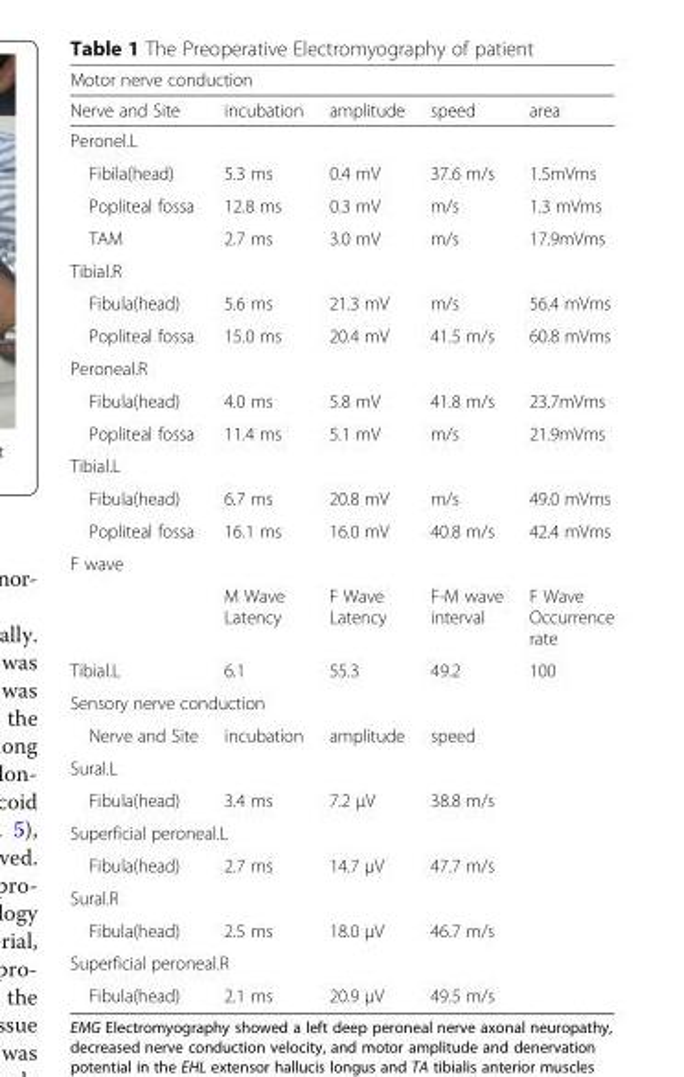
<table><thead><tr><td colspan="5">Motor nerve conduction</td></tr><tr><td>Nerve and Site</td><td>incubation</td><td>amplitude</td><td>speed</td><td>area</td></tr></thead><tbody><tr><td colspan="5">Peronel.L</td></tr><tr><td>Fibila(head)</td><td>5.3 ms</td><td>0.4 mV</td><td>37.6 m/s</td><td>1.5mVms</td></tr><tr><td>Popliteal fossa</td><td>12.8 ms</td><td>0.3 mV</td><td>m/s</td><td>1.3 mVms</td></tr><tr><td>TAM</td><td>2.7 ms</td><td>3.0 mV</td><td>m/s</td><td>17.9mVms</td></tr><tr><td colspan="5">Tibial.R</td></tr><tr><td>Fibula(head)</td><td>5.6 ms</td><td>21.3 mV</td><td>m/s</td><td>56.4 mVms</td></tr><tr><td>Popliteal fossa</td><td>15.0 ms</td><td>20.4 mV</td><td>41.5 m/s</td><td>60.8 mVms</td></tr><tr><td colspan="5">Peroneal.R</td></tr><tr><td>Fibula(head)</td><td>4.0 ms</td><td>5.8 mV</td><td>41.8 m/s</td><td>23.7mVms</td></tr><tr><td>Popliteal fossa</td><td>11.4 ms</td><td>5.1 mV</td><td>m/s</td><td>21.9mVms</td></tr><tr><td colspan="5">Tibial.L</td></tr><tr><td>Fibula(head)</td><td>6.7 ms</td><td>20.8 mV</td><td>m/s</td><td>49.0 mVms</td></tr><tr><td>Popliteal fossa</td><td>16.1 ms</td><td>16.0 mV</td><td>40.8 m/s</td><td>42.4 mVms</td></tr><tr><td colspan="5">F wave</td></tr><tr><td></td><td>M Wave Latency</td><td>F Wave Latency</td><td>F-M wave interval</td><td>F Wave Occurrence rate</td></tr><tr><td>Tibial.L</td><td>6.1</td><td>55.3</td><td>49.2</td><td>100</td></tr><tr><td colspan="5">Sensory nerve conduction</td></tr><tr><td>Nerve and Site</td><td>incubation</td><td>amplitude</td><td colspan="2">speed</td></tr><tr><td colspan="5">Sural.L</td></tr><tr><td>Fibula(head)</td><td>3.4 ms</td><td>7.2 μV</td><td colspan="2">38.8 m/s</td></tr><tr><td colspan="5">Superficial peroneal.L</td></tr><tr><td>Fibula(head)</td><td>2.7 ms</td><td>14.7 μV</td><td colspan="2">47.7 m/s</td></tr><tr><td colspan="5">Sural.R</td></tr><tr><td>Fibula(head)</td><td>2.5 ms</td><td>18.0 μV</td><td colspan="2">46.7 m/s</td></tr><tr><td colspan="5">Superficial peroneal.R</td></tr><tr><td>Fibula(head)</td><td>2.1 ms</td><td>20.9 μV</td><td colspan="2">49.5 m/s</td></tr></tbody></table>